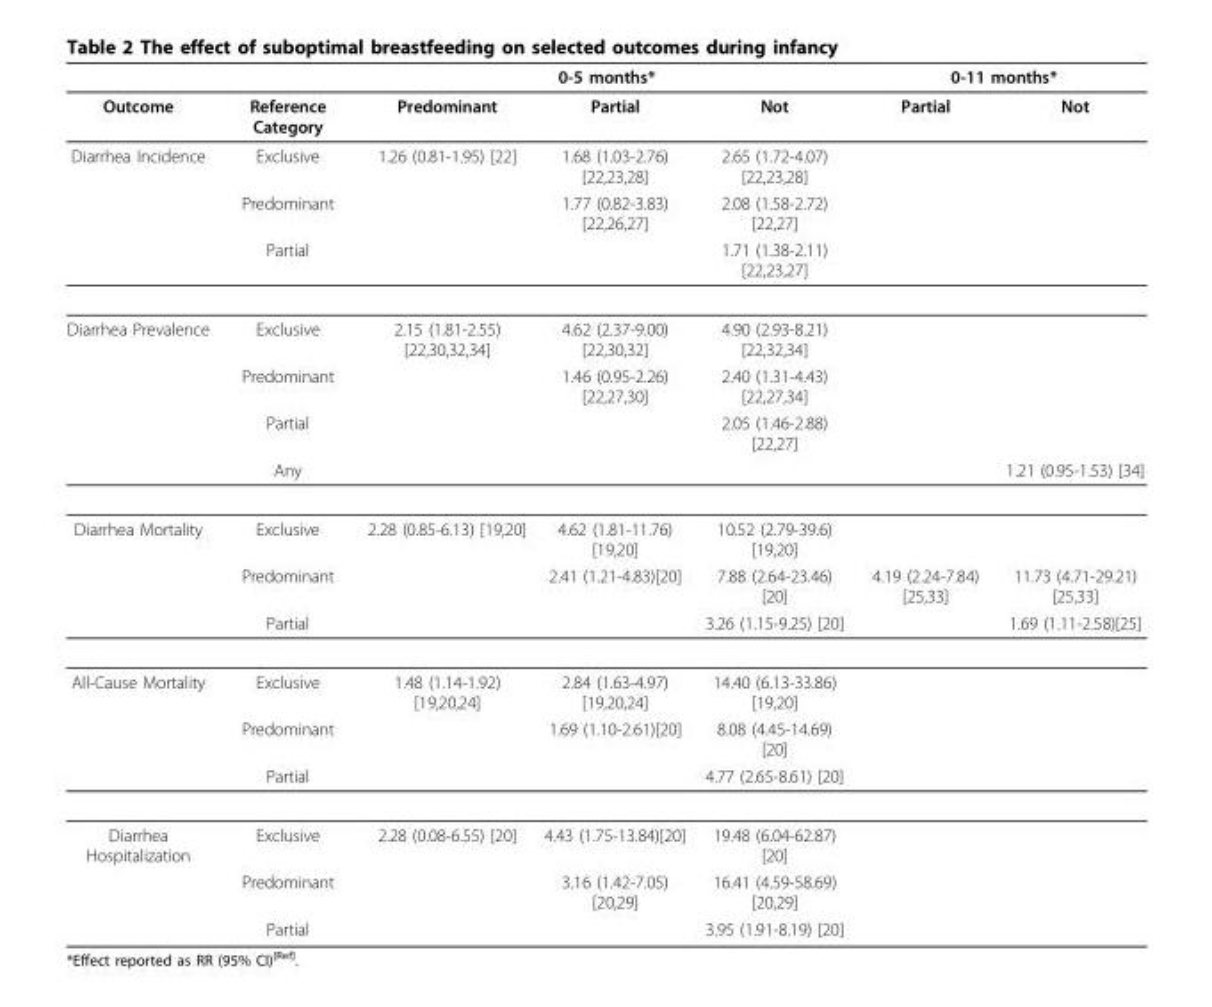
<table><thead><tr><td rowspan="2">Outcome</td><td rowspan="2">Reference Category</td><td colspan="3">0-5 months*</td><td colspan="2">0-11 months*</td></tr><tr><td>Predominant</td><td>Partial</td><td>Not</td><td>Partial</td><td>Not</td></tr></thead><tbody><tr><td rowspan="3">Diarrhea Incidence</td><td>Exclusive</td><td>1.26 (0.81-1.95) [22]</td><td>1.68 (1.03-2.76) [22,23,28]</td><td>2.65 (1.72-4.07) [22,23,28]</td><td></td><td></td></tr><tr><td>Predominant</td><td></td><td>1.77 (0.82-3.83) [22,26,27]</td><td>2.08 (1.58-2.72) [22,27]</td><td></td><td></td></tr><tr><td>Partial</td><td></td><td></td><td>1.71 (1.38-2.11) [22,23,27]</td><td></td><td></td></tr><tr><td rowspan="4">Diarrhea Prevalence</td><td>Exclusive</td><td>2.15 (1.81-2.55) [22,30,32,34]</td><td>4.62 (2.37-9.00) [22,30,32]</td><td>4.90 (2.93-8.21) [22,32,34]</td><td></td><td></td></tr><tr><td>Predominant</td><td></td><td>1.46 (0.95-2.26) [22,27,30]</td><td>2.40 (1.31-4.43) [22,27,34]</td><td></td><td></td></tr><tr><td>Partial</td><td></td><td></td><td>2.05 (1.46-2.88) [22,27]</td><td></td><td></td></tr><tr><td>Any</td><td></td><td></td><td></td><td></td><td>1.21 (0.95-1.53) [34]</td></tr><tr><td rowspan="3">Diarrhea Mortality</td><td>Exclusive</td><td>2.28 (0.85-6.13) [19,20]</td><td>4.62 (1.81-11.76) [19,20]</td><td>10.52 (2.79-39.6) [19,20]</td><td></td><td></td></tr><tr><td>Predominant</td><td></td><td>2.41 (1.21-4.83)[20]</td><td>7.88 (2.64-23.46) [20]</td><td>4.19 (2.24-7.84) [25,33]</td><td>11.73 (4.71-29.21) [25,33]</td></tr><tr><td>Partial</td><td></td><td></td><td>3.26 (1.15-9.25) [20]</td><td></td><td>1.69 (1.11-2.58)[25]</td></tr><tr><td rowspan="3">All-Cause Mortality</td><td>Exclusive</td><td>1.48 (1.14-1.92) [19,20,24]</td><td>2.84 (1.63-4.97) [19,20,24]</td><td>14.40 (6.13-33.86) [19,20]</td><td></td><td></td></tr><tr><td>Predominant</td><td></td><td>1.69 (1.10-2.61)[20]</td><td>8.08 (4.45-14.69) [20]</td><td></td><td></td></tr><tr><td>Partial</td><td></td><td></td><td>4.77 (2.65-8.61) [20]</td><td></td><td></td></tr><tr><td rowspan="3">Diarrhea Hospitalization</td><td>Exclusive</td><td>2.28 (0.08-6.55) [20]</td><td>4.43 (1.75-13.84)[20]</td><td>19.48 (6.04-62.87) [20]</td><td></td><td></td></tr><tr><td>Predominant</td><td></td><td>3.16 (1.42-7.05) [20,29]</td><td>16.41 (4.59-58.69) [20,29]</td><td></td><td></td></tr><tr><td>Partial</td><td></td><td></td><td>3.95 (1.91-8.19) [20]</td><td></td><td></td></tr></tbody></table>